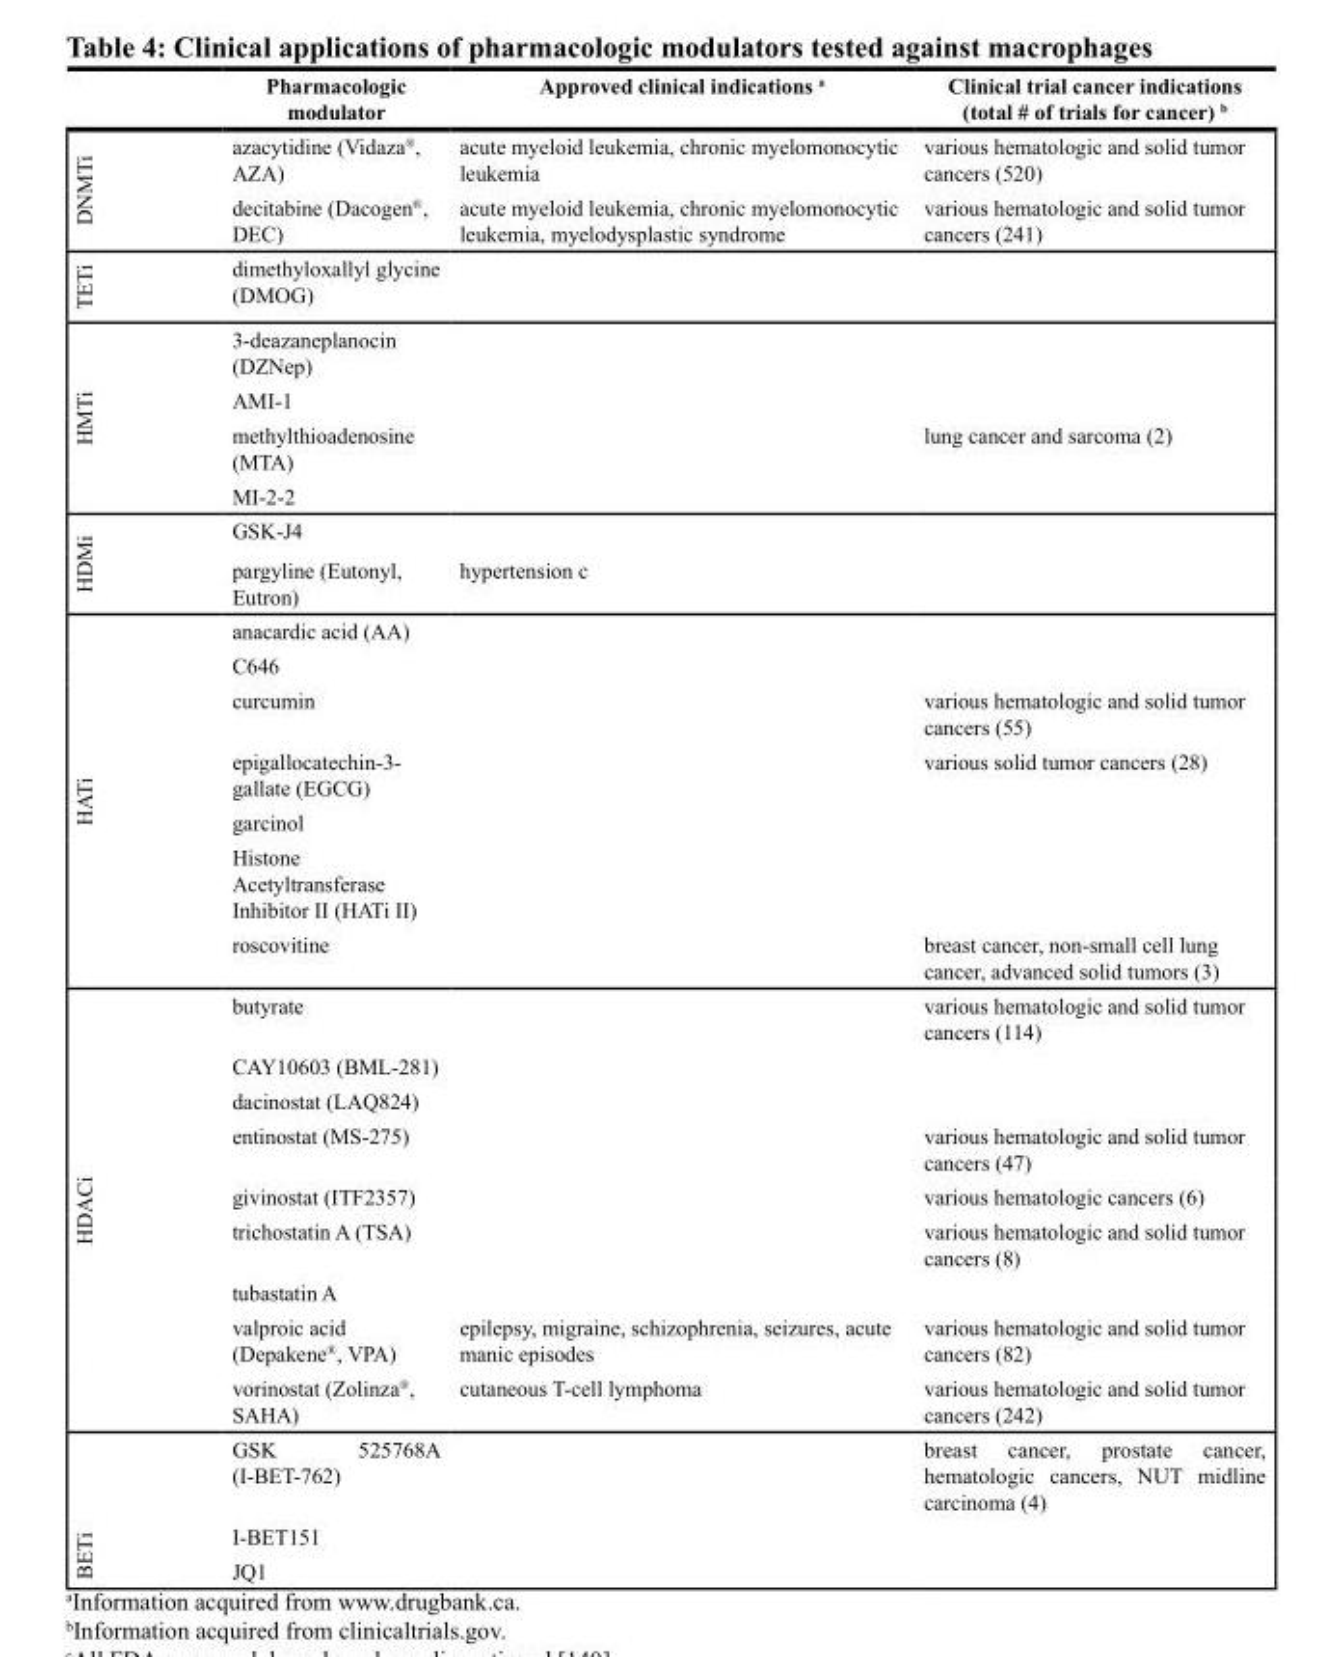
<table><thead><tr><td></td><td>Pharmacologic modulator</td><td>Approved clinical indications <sup>a</sup></td><td>Clinical trial cancer indications (total # of trials for cancer) <sup>b</sup></td></tr></thead><tbody><tr><td rowspan="2">DNMTi</td><td>azacytidine (Vidaza<sup>®</sup>, AZA)</td><td>acute myeloid leukemia, chronic myelomonocytic leukemia</td><td>various hematologic and solid tumor cancers (520)</td></tr><tr><td>decitabine (Dacogen<sup>®</sup>, DEC)</td><td>acute myeloid leukemia, chronic myelomonocytic leukemia, myelodysplastic syndrome</td><td>various hematologic and solid tumor cancers (241)</td></tr><tr><td>TETi</td><td>dimethyloxallyl glycine (DMOG)</td><td></td><td></td></tr><tr><td rowspan="4">HMTi</td><td>3-deazaneplanocin (DZNep)</td><td></td><td></td></tr><tr><td>AMI-1</td><td></td><td></td></tr><tr><td>methylthioadenosine (MTA)</td><td></td><td>lung cancer and sarcoma (2)</td></tr><tr><td>MI-2-2</td><td></td><td></td></tr><tr><td rowspan="2">HDMi</td><td>GSK-J4</td><td></td><td></td></tr><tr><td>pargyline (Eutonyl, Eutron)</td><td>hypertension c</td><td></td></tr><tr><td rowspan="7">HATi</td><td>anacardic acid (AA)</td><td></td><td></td></tr><tr><td>C646</td><td></td><td></td></tr><tr><td>curcumin</td><td></td><td>various hematologic and solid tumor cancers (55)</td></tr><tr><td>epigallocatechin-3- gallate (EGCG)</td><td></td><td>various solid tumor cancers (28)</td></tr><tr><td>garcinol</td><td></td><td></td></tr><tr><td>Histone Acetyltransferase Inhibitor II (HATi II)</td><td></td><td></td></tr><tr><td>roscovitine</td><td></td><td>breast cancer, non-small cell lung cancer, advanced solid tumors (3)</td></tr><tr><td rowspan="9">HDACi</td><td>butyrate</td><td></td><td>various hematologic and solid tumor cancers (114)</td></tr><tr><td>CAY10603 (BML-281)</td><td></td><td></td></tr><tr><td>dacinostat (LAQ824)</td><td></td><td></td></tr><tr><td>entinostat (MS-275)</td><td></td><td>various hematologic and solid tumor cancers (47)</td></tr><tr><td>givinostat (ITF2357)</td><td></td><td>various hematologic cancers (6)</td></tr><tr><td>trichostatin A (TSA)</td><td></td><td>various hematologic and solid tumor cancers (8)</td></tr><tr><td>tubastatin A</td><td></td><td></td></tr><tr><td>valproic acid (Depakene<sup>®</sup>, VPA)</td><td>epilepsy, migraine, schizophrenia, seizures, acute manic episodes</td><td>various hematologic and solid tumor cancers (82)</td></tr><tr><td>vorinostat (Zolinza<sup>®</sup>, SAHA)</td><td>cutaneous T-cell lymphoma</td><td>various hematologic and solid tumor cancers (242)</td></tr><tr><td rowspan="3">BETi</td><td>GSK 525768A (I-BET-762)</td><td></td><td>breast cancer, prostate cancer, hematologic cancers, NUT midline carcinoma (4)</td></tr><tr><td>I-BET151</td><td></td><td></td></tr><tr><td>JQ1</td><td></td><td></td></tr></tbody></table>